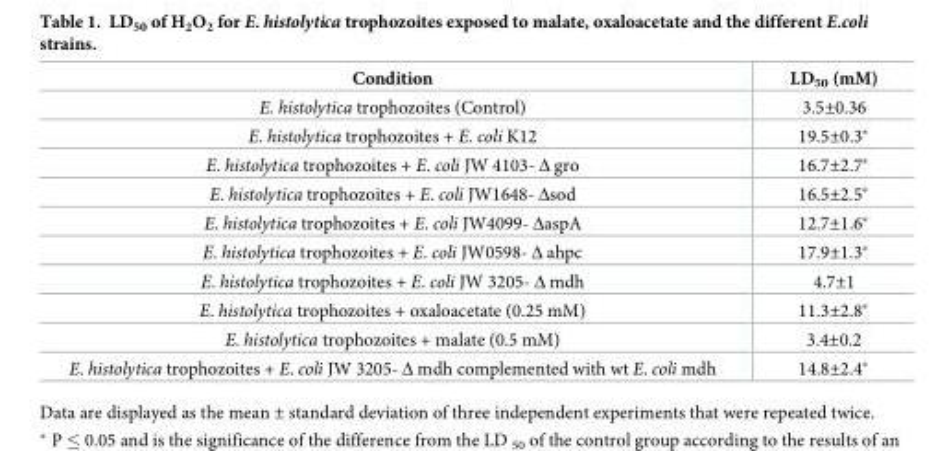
<table><thead><tr><td>Condition</td><td>LD<sub>50</sub> (mM)</td></tr></thead><tbody><tr><td>E. histolytica trophozoites (Control)</td><td>3.5±0.36</td></tr><tr><td>E. histolytica trophozoites + E. coli K12</td><td>19.5±0.3*</td></tr><tr><td>E. histolytica trophozoites + E. coli JW 4103- Δ gro</td><td>16.7±2.7*</td></tr><tr><td>E. histolytica trophozoites + E. coli JW1648- Δsod</td><td>16.5±2.5*</td></tr><tr><td>E. histolytica trophozoites + E. coli JW4099- ΔaspA</td><td>12.7±1.6*</td></tr><tr><td>E. histolytica trophozoites + E. coli JW0598- Δ ahpc</td><td>17.9±1.3*</td></tr><tr><td>E. histolytica trophozoites + E. coli JW 3205- Δ mdh</td><td>4.7±1</td></tr><tr><td>E. histolytica trophozoites + oxaloacetate (0.25 mM)</td><td>11.3±2.8*</td></tr><tr><td>E. histolytica trophozoites + malate (0.5 mM)</td><td>3.4±0.2</td></tr><tr><td>E. histolytica trophozoites + E. coli JW 3205- Δ mdh complemented with wt E. coli mdh</td><td>14.8±2.4*</td></tr></tbody></table>